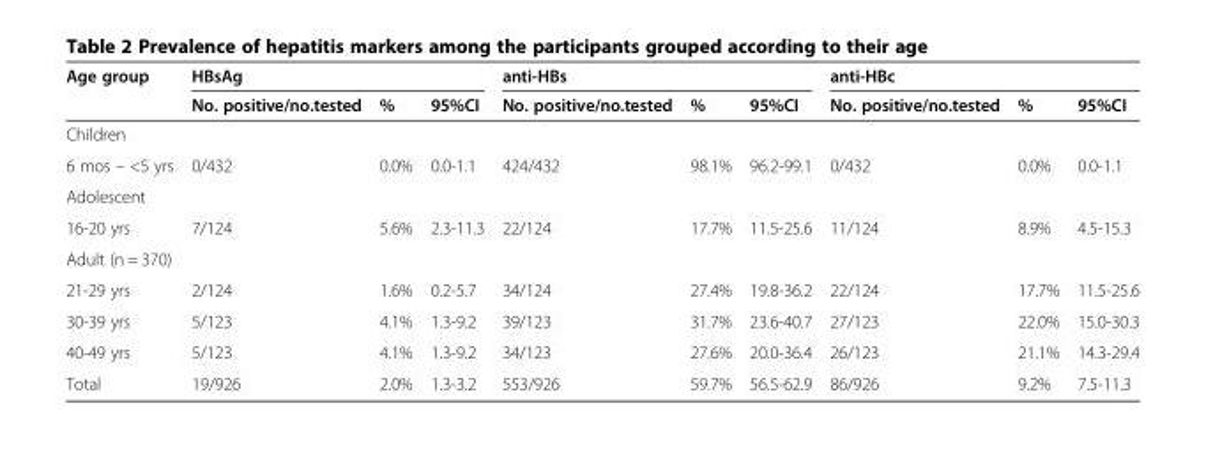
<table><thead><tr><td rowspan="2">Age group</td><td colspan="3">HBsAg</td><td colspan="3">anti-HBs</td><td colspan="3">anti-HBc</td></tr><tr><td>No. positive/no.tested</td><td>%</td><td>95%CI</td><td>No. positive/no.tested</td><td>%</td><td>95%CI</td><td>No. positive/no.tested</td><td>%</td><td>95%CI</td></tr></thead><tbody><tr><td colspan="10">Children</td></tr><tr><td>6 mos – &lt;5 yrs</td><td>0/432</td><td>0.0%</td><td>0.0-1.1</td><td>424/432</td><td>98.1%</td><td>96.2-99.1</td><td>0/432</td><td>0.0%</td><td>0.0-1.1</td></tr><tr><td colspan="10">Adolescent</td></tr><tr><td>16-20 yrs</td><td>7/124</td><td>5.6%</td><td>2.3-11.3</td><td>22/124</td><td>17.7%</td><td>11.5-25.6</td><td>11/124</td><td>8.9%</td><td>4.5-15.3</td></tr><tr><td colspan="10">Adult (n = 370)</td></tr><tr><td>21-29 yrs</td><td>2/124</td><td>1.6%</td><td>0.2-5.7</td><td>34/124</td><td>27.4%</td><td>19.8-36.2</td><td>22/124</td><td>17.7%</td><td>11.5-25.6</td></tr><tr><td>30-39 yrs</td><td>5/123</td><td>4.1%</td><td>1.3-9.2</td><td>39/123</td><td>31.7%</td><td>23.6-40.7</td><td>27/123</td><td>22.0%</td><td>15.0-30.3</td></tr><tr><td>40-49 yrs</td><td>5/123</td><td>4.1%</td><td>1.3-9.2</td><td>34/123</td><td>27.6%</td><td>20.0-36.4</td><td>26/123</td><td>21.1%</td><td>14.3-29.4</td></tr><tr><td>Total</td><td>19/926</td><td>2.0%</td><td>1.3-3.2</td><td>553/926</td><td>59.7%</td><td>56.5-62.9</td><td>86/926</td><td>9.2%</td><td>7.5-11.3</td></tr></tbody></table>